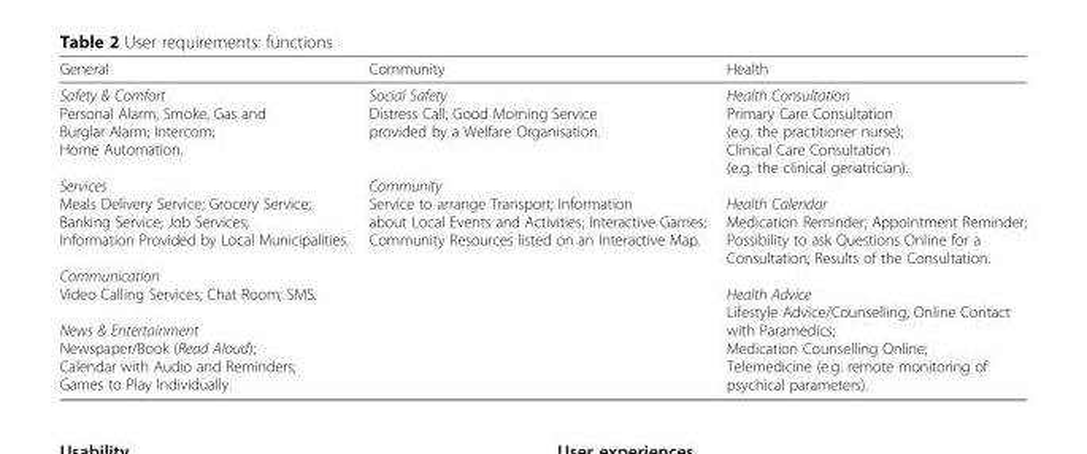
<table><thead><tr><td>General</td><td>Community</td><td>Health</td></tr></thead><tbody><tr><td>Safety &amp; Comfort Personal Alarm; Smoke, Gas and Burglar Alarm; Intercom; Home Automation. Services Meals Delivery Service; Grocery Service; Banking Service; Job Services; Information Provided by Local Municipalities. Communication Video Calling Services; Chat Room; SMS. News &amp; Entertainment Newspaper/Book (Read Aloud); Calendar with Audio and Reminders; Games to Play Individually.</td><td>Social Safety Distress Call; Good Morning Service provided by a Welfare Organisation. Community Service to arrange Transport; Information about Local Events and Activities; Interactive Games; Community Resources listed on an Interactive Map.</td><td>Health Consultation Primary Care Consultation (e.g. the practitioner nurse); Clinical Care Consultation (e.g. the clinical geriatrician). Health Calendar Medication Reminder; Appointment Reminder; Possibility to ask Questions Online for a Consultation; Results of the Consultation. Health Advice Lifestyle Advice/Counselling; Online Contact with Paramedics; Medication Counselling Online; Telemedicine (e.g. remote monitoring of psychical parameters).</td></tr></tbody></table>